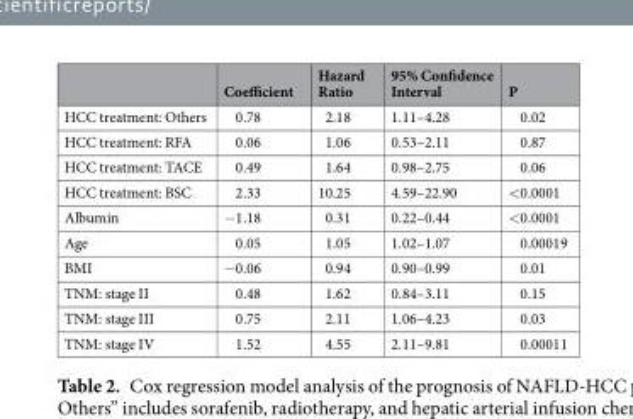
<table><thead><tr><td></td><td>Coefficient</td><td>Hazard Ratio</td><td>95% Confidence Interval</td><td>P</td></tr></thead><tbody><tr><td>HCC treatment: Others</td><td>0.78</td><td>2.18</td><td>1.11–4.28</td><td>0.02</td></tr><tr><td>HCC treatment: RFA</td><td>0.06</td><td>1.06</td><td>0.53–2.11</td><td>0.87</td></tr><tr><td>HCC treatment: TACE</td><td>0.49</td><td>1.64</td><td>0.98–2.75</td><td>0.06</td></tr><tr><td>HCC treatment: BSC</td><td>2.33</td><td>10.25</td><td>4.59–22.90</td><td>&lt;0.0001</td></tr><tr><td>Albumin</td><td>−1.18</td><td>0.31</td><td>0.22–0.44</td><td>&lt;0.0001</td></tr><tr><td>Age</td><td>0.05</td><td>1.05</td><td>1.02–1.07</td><td>0.00019</td></tr><tr><td>BMI</td><td>−0.06</td><td>0.94</td><td>0.90–0.99</td><td>0.01</td></tr><tr><td>TNM: stage II</td><td>0.48</td><td>1.62</td><td>0.84–3.11</td><td>0.15</td></tr><tr><td>TNM: stage III</td><td>0.75</td><td>2.11</td><td>1.06–4.23</td><td>0.03</td></tr><tr><td>TNM: stage IV</td><td>1.52</td><td>4.55</td><td>2.11–9.81</td><td>0.00011</td></tr></tbody></table>